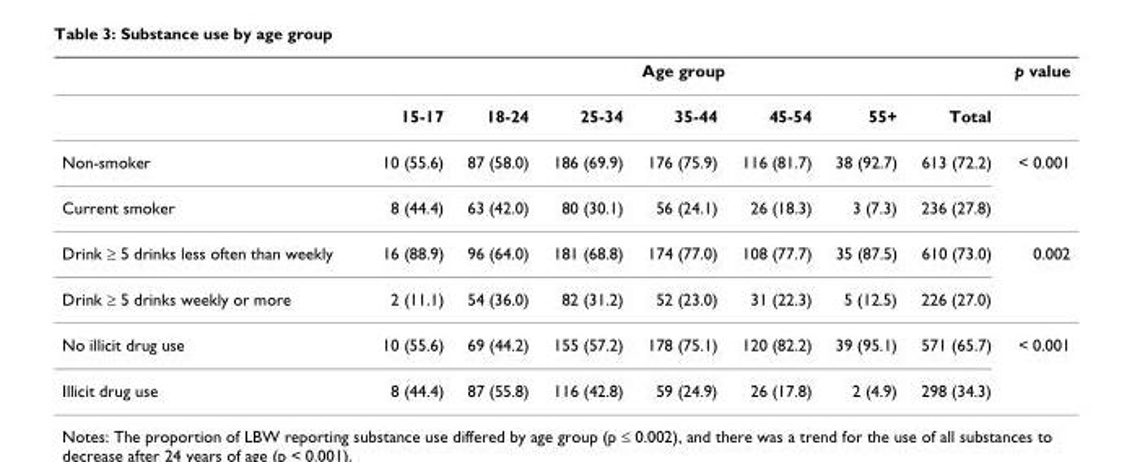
<table><thead><tr><td rowspan="2"></td><td colspan="7">Age group</td><td rowspan="2">p value</td></tr><tr><td>15-17</td><td>18-24</td><td>25-34</td><td>35-44</td><td>45-54</td><td>55+</td><td>Total</td></tr></thead><tbody><tr><td>Non-smoker</td><td>10 (55.6)</td><td>87 (58.0)</td><td>186 (69.9)</td><td>176 (75.9)</td><td>116 (81.7)</td><td>38 (92.7)</td><td>613 (72.2)</td><td>&lt; 0.001</td></tr><tr><td>Current smoker</td><td>8 (44.4)</td><td>63 (42.0)</td><td>80 (30.1)</td><td>56 (24.1)</td><td>26 (18.3)</td><td>3 (7.3)</td><td>236 (27.8)</td><td></td></tr><tr><td>Drink ≥ 5 drinks less often than weekly</td><td>16 (88.9)</td><td>96 (64.0)</td><td>181 (68.8)</td><td>174 (77.0)</td><td>108 (77.7)</td><td>35 (87.5)</td><td>610 (73.0)</td><td>0.002</td></tr><tr><td>Drink ≥ 5 drinks weekly or more</td><td>2 (11.1)</td><td>54 (36.0)</td><td>82 (31.2)</td><td>52 (23.0)</td><td>31 (22.3)</td><td>5 (12.5)</td><td>226 (27.0)</td><td></td></tr><tr><td>No illicit drug use</td><td>10 (55.6)</td><td>69 (44.2)</td><td>155 (57.2)</td><td>178 (75.1)</td><td>120 (82.2)</td><td>39 (95.1)</td><td>571 (65.7)</td><td>&lt; 0.001</td></tr><tr><td>Illicit drug use</td><td>8 (44.4)</td><td>87 (55.8)</td><td>116 (42.8)</td><td>59 (24.9)</td><td>26 (17.8)</td><td>2 (4.9)</td><td>298 (34.3)</td><td></td></tr></tbody></table>